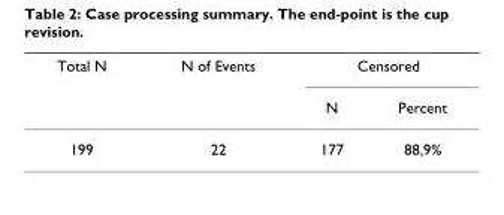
<table><thead><tr><td rowspan="2">Total N</td><td rowspan="2">N of Events</td><td colspan="2">Censored</td></tr><tr><td>N</td><td>Percent</td></tr></thead><tbody><tr><td>199</td><td>22</td><td>177</td><td>88,9%</td></tr></tbody></table>